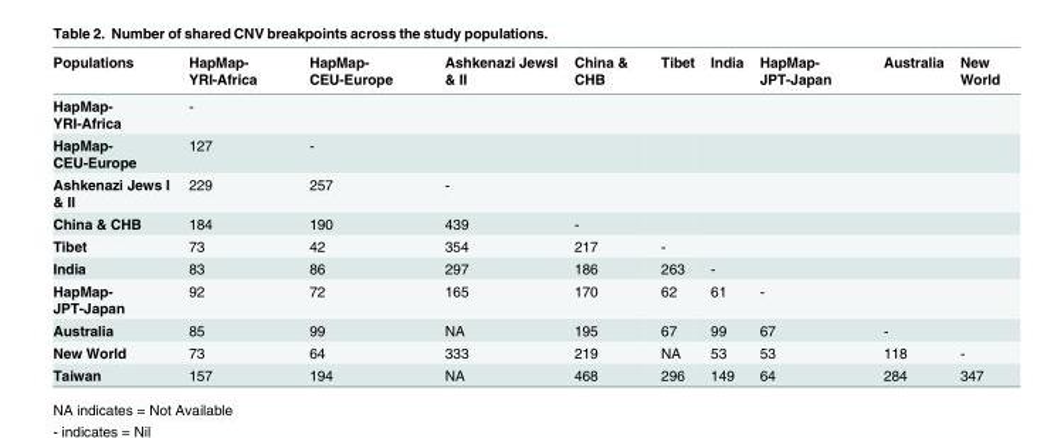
<table><thead><tr><td>Populations</td><td>HapMap- YRI-Africa</td><td>HapMap- CEU-Europe</td><td>Ashkenazi JewsI &amp; II</td><td>China &amp; CHB</td><td>Tibet</td><td>India</td><td>HapMap- JPT-Japan</td><td>Australia</td><td>New World</td></tr></thead><tbody><tr><td>HapMap- YRI-Africa</td><td>-</td><td></td><td></td><td></td><td></td><td></td><td></td><td></td><td></td></tr><tr><td>HapMap- CEU-Europe</td><td>127</td><td>-</td><td></td><td></td><td></td><td></td><td></td><td></td><td></td></tr><tr><td>Ashkenazi Jews I &amp; II</td><td>229</td><td>257</td><td>-</td><td></td><td></td><td></td><td></td><td></td><td></td></tr><tr><td>China &amp; CHB</td><td>184</td><td>190</td><td>439</td><td>-</td><td></td><td></td><td></td><td></td><td></td></tr><tr><td>Tibet</td><td>73</td><td>42</td><td>354</td><td>217</td><td>-</td><td></td><td></td><td></td><td></td></tr><tr><td>India</td><td>83</td><td>86</td><td>297</td><td>186</td><td>263</td><td>-</td><td></td><td></td><td></td></tr><tr><td>HapMap- JPT-Japan</td><td>92</td><td>72</td><td>165</td><td>170</td><td>62</td><td>61</td><td>-</td><td></td><td></td></tr><tr><td>Australia</td><td>85</td><td>99</td><td>NA</td><td>195</td><td>67</td><td>99</td><td>67</td><td>-</td><td></td></tr><tr><td>New World</td><td>73</td><td>64</td><td>333</td><td>219</td><td>NA</td><td>53</td><td>53</td><td>118</td><td>-</td></tr><tr><td>Taiwan</td><td>157</td><td>194</td><td>NA</td><td>468</td><td>296</td><td>149</td><td>64</td><td>284</td><td>347</td></tr></tbody></table>